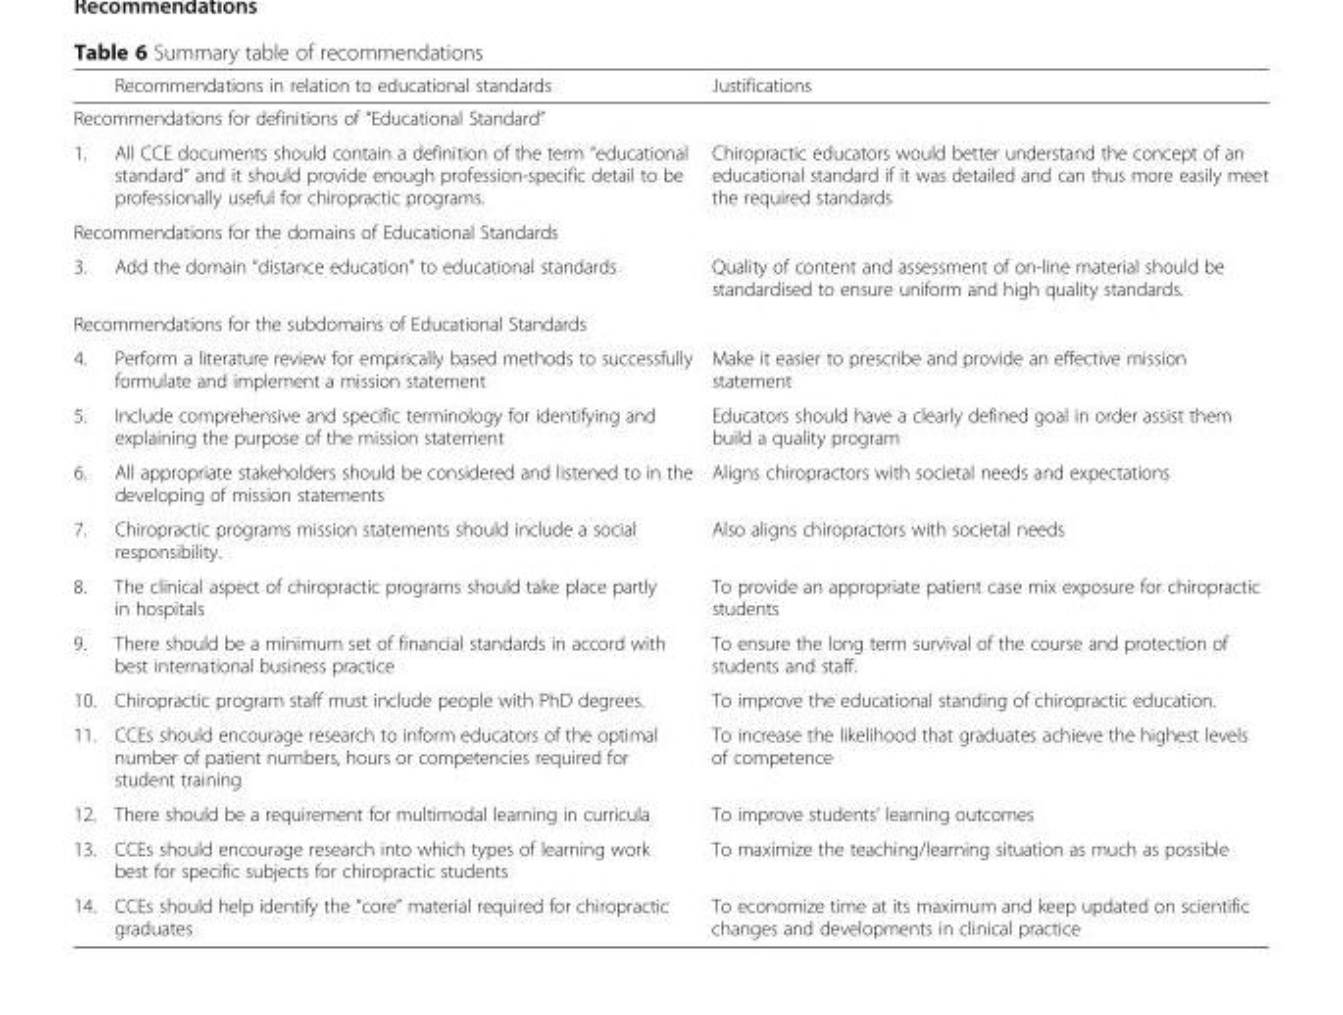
<table><thead><tr><td></td><td>Recommendations in relation to educational standards</td><td>Justifications</td></tr></thead><tbody><tr><td colspan="3">Recommendations for definitions of “Educational Standard”</td></tr><tr><td>1.</td><td>All CCE documents should contain a definition of the term “educational standard” and it should provide enough profession-specific detail to be professionally useful for chiropractic programs.</td><td>Chiropractic educators would better understand the concept of an educational standard if it was detailed and can thus more easily meet the required standards</td></tr><tr><td colspan="3">Recommendations for the domains of Educational Standards</td></tr><tr><td>3.</td><td>Add the domain “distance education” to educational standards</td><td>Quality of content and assessment of on-line material should be standardised to ensure uniform and high quality standards.</td></tr><tr><td colspan="3">Recommendations for the subdomains of Educational Standards</td></tr><tr><td>4.</td><td>Perform a literature review for empirically based methods to successfully formulate and implement a mission statement</td><td>Make it easier to prescribe and provide an effective mission statement</td></tr><tr><td>5.</td><td>Include comprehensive and specific terminology for identifying and explaining the purpose of the mission statement</td><td>Educators should have a clearly defined goal in order assist them build a quality program</td></tr><tr><td>6.</td><td>All appropriate stakeholders should be considered and listened to in the developing of mission statements</td><td>Aligns chiropractors with societal needs and expectations</td></tr><tr><td>7.</td><td>Chiropractic programs mission statements should include a social responsibility.</td><td>Also aligns chiropractors with societal needs</td></tr><tr><td>8.</td><td>The clinical aspect of chiropractic programs should take place partly in hospitals</td><td>To provide an appropriate patient case mix exposure for chiropractic students</td></tr><tr><td>9.</td><td>There should be a minimum set of financial standards in accord with best international business practice</td><td>To ensure the long term survival of the course and protection of students and staff.</td></tr><tr><td>10.</td><td>Chiropractic program staff must include people with PhD degrees.</td><td>To improve the educational standing of chiropractic education.</td></tr><tr><td>11.</td><td>CCEs should encourage research to inform educators of the optimal number of patient numbers, hours or competencies required for student training</td><td>To increase the likelihood that graduates achieve the highest levels of competence</td></tr><tr><td>12.</td><td>There should be a requirement for multimodal learning in curricula</td><td>To improve students’ learning outcomes</td></tr><tr><td>13.</td><td>CCEs should encourage research into which types of learning work best for specific subjects for chiropractic students</td><td>To maximize the teaching/learning situation as much as possible</td></tr><tr><td>14.</td><td>CCEs should help identify the “core” material required for chiropractic graduates</td><td>To economize time at its maximum and keep updated on scientific changes and developments in clinical practice</td></tr></tbody></table>